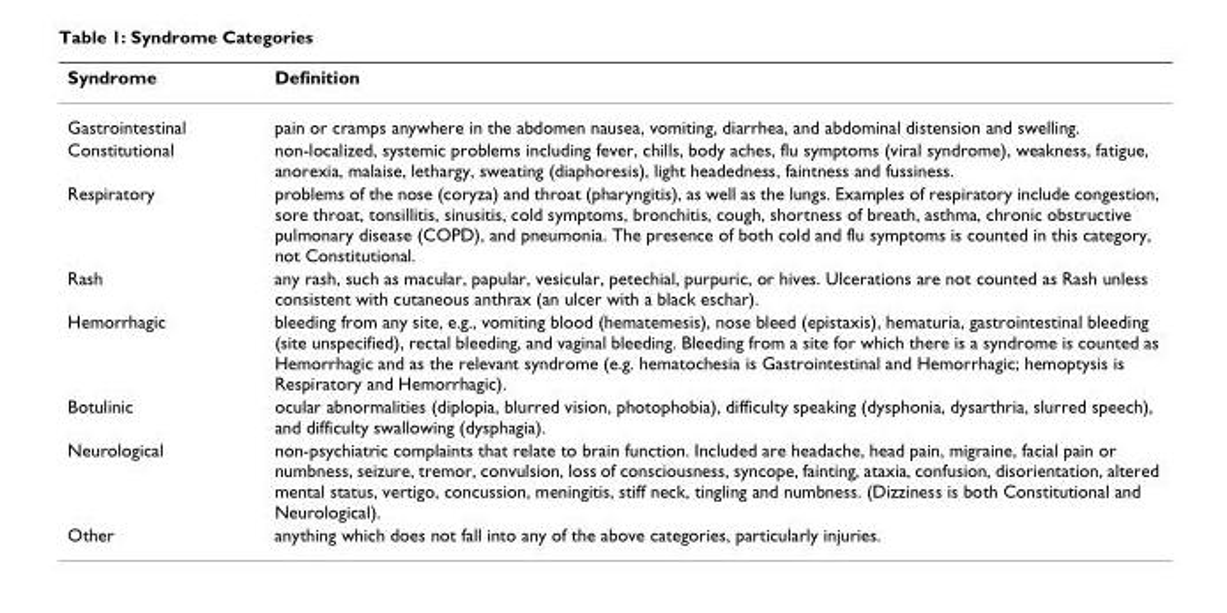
<table><thead><tr><td>Syndrome</td><td>Definition</td></tr></thead><tbody><tr><td>Gastrointestinal</td><td>pain or cramps anywhere in the abdomen nausea, vomiting, diarrhea, and abdominal distension and swelling.</td></tr><tr><td>Constitutional</td><td>non-localized, systemic problems including fever, chills, body aches, flu symptoms (viral syndrome), weakness, fatigue, anorexia, malaise, lethargy, sweating (diaphoresis), light headedness, faintness and fussiness.</td></tr><tr><td>Respiratory</td><td>problems of the nose (coryza) and throat (pharyngitis), as well as the lungs. Examples of respiratory include congestion, sore throat, tonsillitis, sinusitis, cold symptoms, bronchitis, cough, shortness of breath, asthma, chronic obstructive pulmonary disease (COPD), and pneumonia. The presence of both cold and flu symptoms is counted in this category, not Constitutional.</td></tr><tr><td>Rash</td><td>any rash, such as macular, papular, vesicular, petechial, purpuric, or hives. Ulcerations are not counted as Rash unless consistent with cutaneous anthrax (an ulcer with a black eschar).</td></tr><tr><td>Hemorrhagic</td><td>bleeding from any site, e.g., vomiting blood (hematemesis), nose bleed (epistaxis), hematuria, gastrointestinal bleeding (site unspecified), rectal bleeding, and vaginal bleeding. Bleeding from a site for which there is a syndrome is counted as Hemorrhagic and as the relevant syndrome (e.g. hematochesia is Gastrointestinal and Hemorrhagic; hemoptysis is Respiratory and Hemorrhagic).</td></tr><tr><td>Botulinic</td><td>ocular abnormalities (diplopia, blurred vision, photophobia), difficulty speaking (dysphonia, dysarthria, slurred speech), and difficulty swallowing (dysphagia).</td></tr><tr><td>Neurological</td><td>non-psychiatric complaints that relate to brain function. Included are headache, head pain, migraine, facial pain or numbness, seizure, tremor, convulsion, loss of consciousness, syncope, fainting, ataxia, confusion, disorientation, altered mental status, vertigo, concussion, meningitis, stiff neck, tingling and numbness. (Dizziness is both Constitutional and Neurological).</td></tr><tr><td>Other</td><td>anything which does not fall into any of the above categories, particularly injuries.</td></tr></tbody></table>